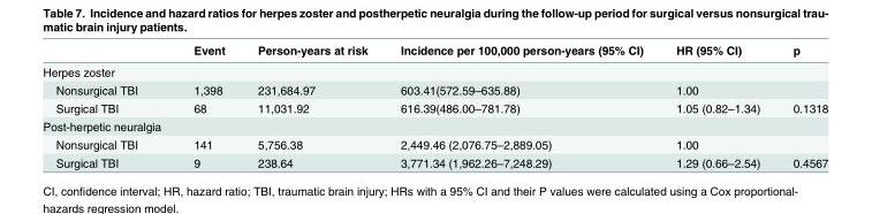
<table><thead><tr><td></td><td>Event</td><td>Person-years at risk</td><td>Incidence per 100,000 person-years (95% CI)</td><td>HR (95% CI)</td><td>p</td></tr></thead><tbody><tr><td colspan="6">Herpes zoster</td></tr><tr><td>Nonsurgical TBI</td><td>1,398</td><td>231,684.97</td><td>603.41(572.59–635.88)</td><td>1.00</td><td></td></tr><tr><td>Surgical TBI</td><td>68</td><td>11,031.92</td><td>616.39(486.00–781.78)</td><td>1.05 (0.82–1.34)</td><td>0.1318</td></tr><tr><td colspan="6">Post-herpetic neuralgia</td></tr><tr><td>Nonsurgical TBI</td><td>141</td><td>5,756.38</td><td>2,449.46 (2,076.75–2,889.05)</td><td>1.00</td><td></td></tr><tr><td>Surgical TBI</td><td>9</td><td>238.64</td><td>3,771.34 (1,962.26–7,248.29)</td><td>1.29 (0.66–2.54)</td><td>0.4567</td></tr></tbody></table>